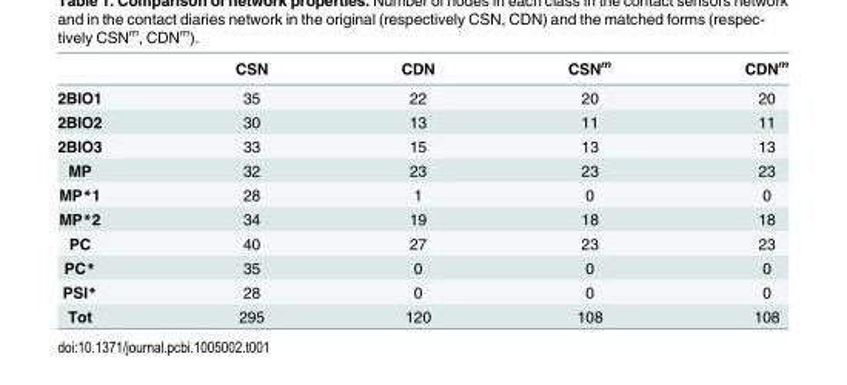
<table><thead><tr><td></td><td>CSN</td><td>CDN</td><td>CSN<sup>m</sup></td><td>CDN<sup>m</sup></td></tr></thead><tbody><tr><td>2BIO1</td><td>35</td><td>22</td><td>20</td><td>20</td></tr><tr><td>2BIO2</td><td>30</td><td>13</td><td>11</td><td>11</td></tr><tr><td>2BIO3</td><td>33</td><td>15</td><td>13</td><td>13</td></tr><tr><td>MP</td><td>32</td><td>23</td><td>23</td><td>23</td></tr><tr><td>MP*1</td><td>28</td><td>1</td><td>0</td><td>0</td></tr><tr><td>MP*2</td><td>34</td><td>19</td><td>18</td><td>18</td></tr><tr><td>PC</td><td>40</td><td>27</td><td>23</td><td>23</td></tr><tr><td>PC*</td><td>35</td><td>0</td><td>0</td><td>0</td></tr><tr><td>PSI*</td><td>28</td><td>0</td><td>0</td><td>0</td></tr><tr><td>Tot</td><td>295</td><td>120</td><td>108</td><td>108</td></tr></tbody></table>